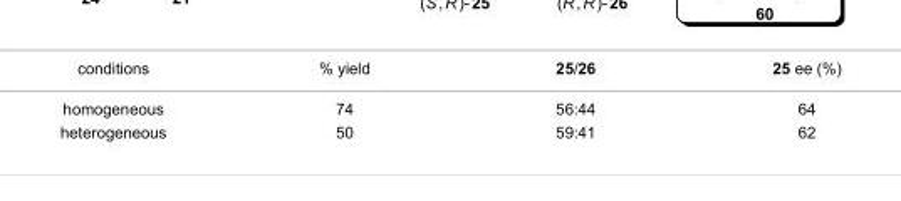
<table><tbody><tr><td>conditions</td><td>% yield</td><td>25/26</td><td>25 ee (%)</td></tr><tr><td>homogeneous</td><td>74</td><td>56:44</td><td>64</td></tr><tr><td>heterogeneous</td><td>50</td><td>59:41</td><td>62</td></tr></tbody></table>